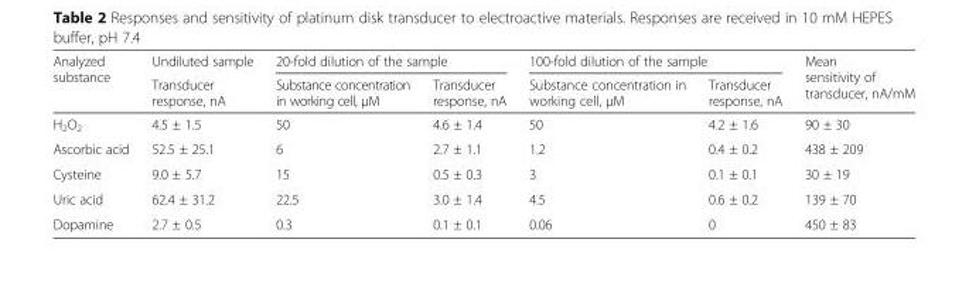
<table><thead><tr><td rowspan="2">Analyzed substance</td><td rowspan="2">Undiluted sample Transducer response, nA</td><td colspan="2">20-fold dilution of the sample</td><td colspan="2">100-fold dilution of the sample</td><td rowspan="2">Mean sensitivity of transducer, nA/mM</td></tr><tr><td>Substance concentration in working cell, μM</td><td>Transducer response, nA</td><td>Substance concentration in working cell, μM</td><td>Transducer response, nA</td></tr></thead><tbody><tr><td>H<sub>2</sub>O<sub>2</sub></td><td>4.5 ± 1.5</td><td>50</td><td>4.6 ± 1.4</td><td>50</td><td>4.2 ± 1.6</td><td>90 ± 30</td></tr><tr><td>Ascorbic acid</td><td>52.5 ± 25.1</td><td>6</td><td>2.7 ± 1.1</td><td>1.2</td><td>0.4 ± 0.2</td><td>438 ± 209</td></tr><tr><td>Cysteine</td><td>9.0 ± 5.7</td><td>15</td><td>0.5 ± 0.3</td><td>3</td><td>0.1 ± 0.1</td><td>30 ± 19</td></tr><tr><td>Uric acid</td><td>62.4 ± 31.2</td><td>22.5</td><td>3.0 ± 1.4</td><td>4.5</td><td>0.6 ± 0.2</td><td>139 ± 70</td></tr><tr><td>Dopamine</td><td>2.7 ± 0.5</td><td>0.3</td><td>0.1 ± 0.1</td><td>0.06</td><td>0</td><td>450 ± 83</td></tr></tbody></table>